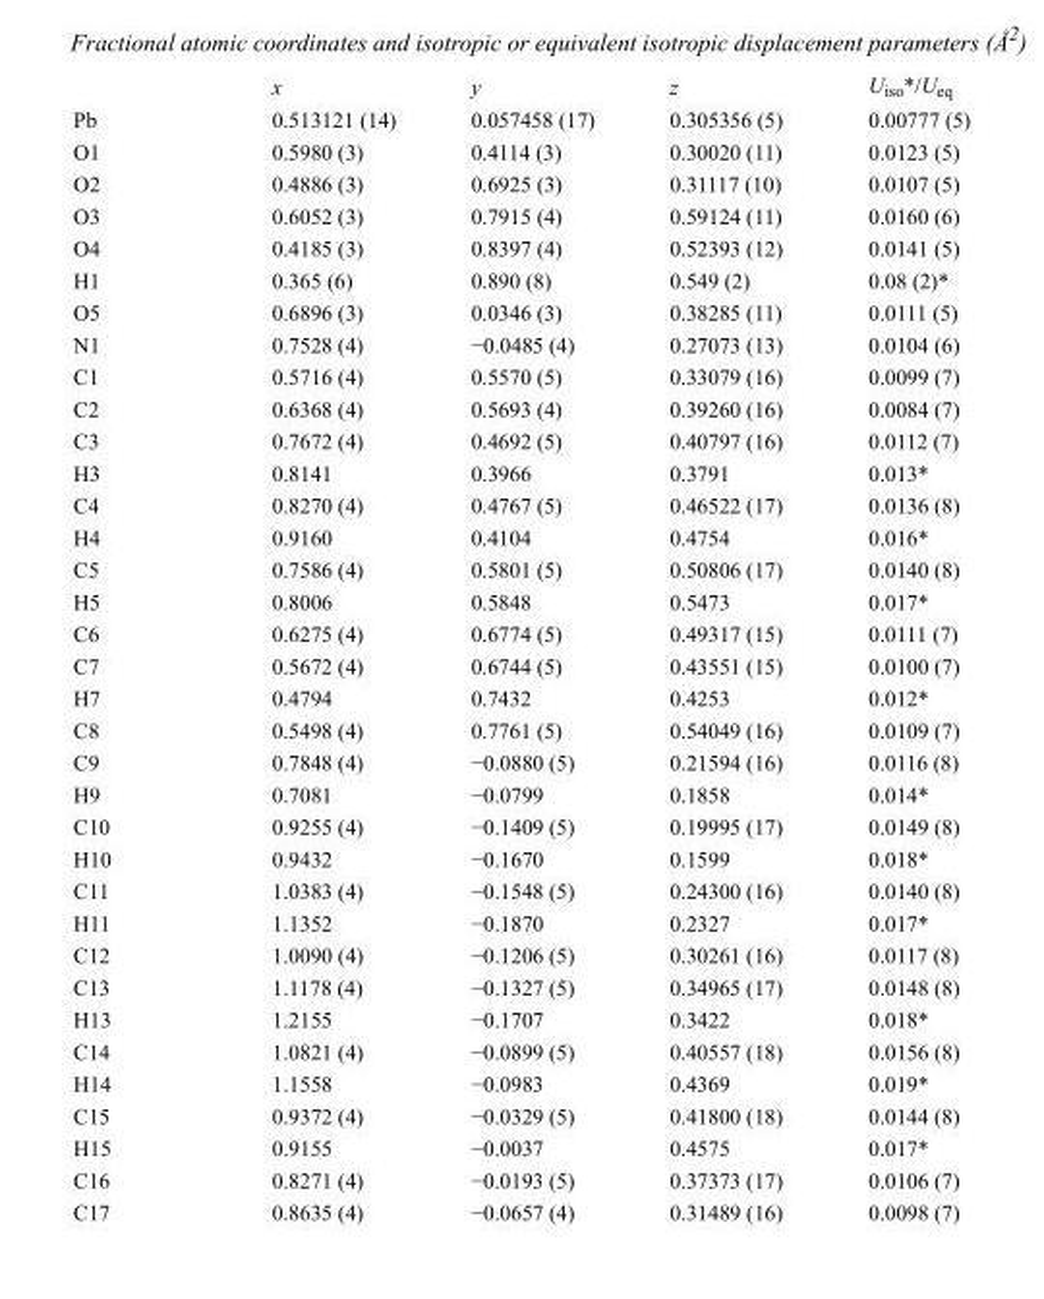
<table><thead><tr><td></td><td>x</td><td>y</td><td>z</td><td>U<sub>iso</sub>*/U<sub>eq</sub></td></tr></thead><tbody><tr><td>Pb</td><td>0.513121 (14)</td><td>0.057458 (17)</td><td>0.305356 (5)</td><td>0.00777 (5)</td></tr><tr><td>O1</td><td>0.5980 (3)</td><td>0.4114 (3)</td><td>0.30020 (11)</td><td>0.0123 (5)</td></tr><tr><td>O2</td><td>0.4886 (3)</td><td>0.6925 (3)</td><td>0.31117 (10)</td><td>0.0107 (5)</td></tr><tr><td>O3</td><td>0.6052 (3)</td><td>0.7915 (4)</td><td>0.59124 (11)</td><td>0.0160 (6)</td></tr><tr><td>O4</td><td>0.4185 (3)</td><td>0.8397 (4)</td><td>0.52393 (12)</td><td>0.0141 (5)</td></tr><tr><td>H1</td><td>0.365 (6)</td><td>0.890 (8)</td><td>0.549 (2)</td><td>0.08 (2)*</td></tr><tr><td>O5</td><td>0.6896 (3)</td><td>0.0346 (3)</td><td>0.38285 (11)</td><td>0.0111 (5)</td></tr><tr><td>N1</td><td>0.7528 (4)</td><td>−0.0485 (4)</td><td>0.27073 (13)</td><td>0.0104 (6)</td></tr><tr><td>C1</td><td>0.5716 (4)</td><td>0.5570 (5)</td><td>0.33079 (16)</td><td>0.0099 (7)</td></tr><tr><td>C2</td><td>0.6368 (4)</td><td>0.5693 (4)</td><td>0.39260 (16)</td><td>0.0084 (7)</td></tr><tr><td>C3</td><td>0.7672 (4)</td><td>0.4692 (5)</td><td>0.40797 (16)</td><td>0.0112 (7)</td></tr><tr><td>H3</td><td>0.8141</td><td>0.3966</td><td>0.3791</td><td>0.013*</td></tr><tr><td>C4</td><td>0.8270 (4)</td><td>0.4767 (5)</td><td>0.46522 (17)</td><td>0.0136 (8)</td></tr><tr><td>H4</td><td>0.9160</td><td>0.4104</td><td>0.4754</td><td>0.016*</td></tr><tr><td>C5</td><td>0.7586 (4)</td><td>0.5801 (5)</td><td>0.50806 (17)</td><td>0.0140 (8)</td></tr><tr><td>H5</td><td>0.8006</td><td>0.5848</td><td>0.5473</td><td>0.017*</td></tr><tr><td>C6</td><td>0.6275 (4)</td><td>0.6774 (5)</td><td>0.49317 (15)</td><td>0.0111 (7)</td></tr><tr><td>C7</td><td>0.5672 (4)</td><td>0.6744 (5)</td><td>0.43551 (15)</td><td>0.0100 (7)</td></tr><tr><td>H7</td><td>0.4794</td><td>0.7432</td><td>0.4253</td><td>0.012*</td></tr><tr><td>C8</td><td>0.5498 (4)</td><td>0.7761 (5)</td><td>0.54049 (16)</td><td>0.0109 (7)</td></tr><tr><td>C9</td><td>0.7848 (4)</td><td>−0.0880 (5)</td><td>0.21594 (16)</td><td>0.0116 (8)</td></tr><tr><td>H9</td><td>0.7081</td><td>−0.0799</td><td>0.1858</td><td>0.014*</td></tr><tr><td>C10</td><td>0.9255 (4)</td><td>−0.1409 (5)</td><td>0.19995 (17)</td><td>0.0149 (8)</td></tr><tr><td>H10</td><td>0.9432</td><td>−0.1670</td><td>0.1599</td><td>0.018*</td></tr><tr><td>C11</td><td>1.0383 (4)</td><td>−0.1548 (5)</td><td>0.24300 (16)</td><td>0.0140 (8)</td></tr><tr><td>H11</td><td>1.1352</td><td>−0.1870</td><td>0.2327</td><td>0.017*</td></tr><tr><td>C12</td><td>1.0090 (4)</td><td>−0.1206 (5)</td><td>0.30261 (16)</td><td>0.0117 (8)</td></tr><tr><td>C13</td><td>1.1178 (4)</td><td>−0.1327 (5)</td><td>0.34965 (17)</td><td>0.0148 (8)</td></tr><tr><td>H13</td><td>1.2155</td><td>−0.1707</td><td>0.3422</td><td>0.018*</td></tr><tr><td>C14</td><td>1.0821 (4)</td><td>−0.0899 (5)</td><td>0.40557 (18)</td><td>0.0156 (8)</td></tr><tr><td>H14</td><td>1.1558</td><td>−0.0983</td><td>0.4369</td><td>0.019*</td></tr><tr><td>C15</td><td>0.9372 (4)</td><td>−0.0329 (5)</td><td>0.41800 (18)</td><td>0.0144 (8)</td></tr><tr><td>H15</td><td>0.9155</td><td>−0.0037</td><td>0.4575</td><td>0.017*</td></tr><tr><td>C16</td><td>0.8271 (4)</td><td>−0.0193 (5)</td><td>0.37373 (17)</td><td>0.0106 (7)</td></tr><tr><td>C17</td><td>0.8635 (4)</td><td>−0.0657 (4)</td><td>0.31489 (16)</td><td>0.0098 (7)</td></tr></tbody></table>